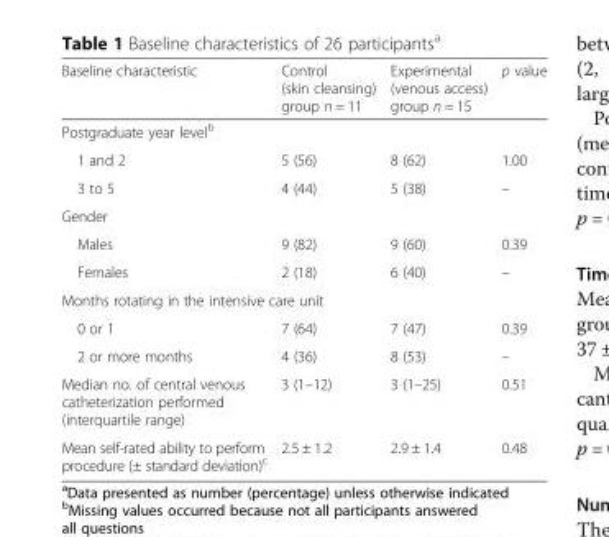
<table><thead><tr><td>Baseline characteristic</td><td>Control (skin cleansing) group n = 11</td><td>Experimental (venous access) group n = 15</td><td>p value</td></tr></thead><tbody><tr><td colspan="4">Postgraduate year level<sup>b</sup></td></tr><tr><td>1 and 2</td><td>5 (56)</td><td>8 (62)</td><td>1.00</td></tr><tr><td>3 to 5</td><td>4 (44)</td><td>5 (38)</td><td>–</td></tr><tr><td colspan="4">Gender</td></tr><tr><td>Males</td><td>9 (82)</td><td>9 (60)</td><td>0.39</td></tr><tr><td>Females</td><td>2 (18)</td><td>6 (40)</td><td>–</td></tr><tr><td colspan="4">Months rotating in the intensive care unit</td></tr><tr><td>0 or 1</td><td>7 (64)</td><td>7 (47)</td><td>0.39</td></tr><tr><td>2 or more months</td><td>4 (36)</td><td>8 (53)</td><td>–</td></tr><tr><td>Median no. of central venous catheterization performed (interquartile range)</td><td>3 (1–12)</td><td>3 (1–25)</td><td>0.51</td></tr><tr><td>Mean self-rated ability to perform procedure (± standard deviation)<sup>c</sup></td><td>2.5 ± 1.2</td><td>2.9 ± 1.4</td><td>0.48</td></tr></tbody></table>